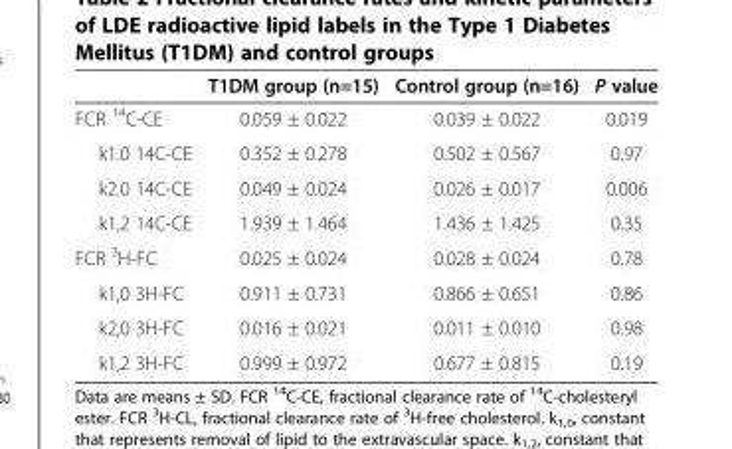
<table><thead><tr><td></td><td>T1DM group (n=15)</td><td>Control group (n=16)</td><td>P value</td></tr></thead><tbody><tr><td>FCR <sup>14</sup>C-CE</td><td>0.059 ± 0.022</td><td>0.039 ± 0.022</td><td>0.019</td></tr><tr><td>k1.0 14C-CE</td><td>0.352 ± 0.278</td><td>0.502 ± 0.567</td><td>0.97</td></tr><tr><td>k2.0 14C-CE</td><td>0.049 ± 0.024</td><td>0.026 ± 0.017</td><td>0.006</td></tr><tr><td>k1,2 14C-CE</td><td>1.939 ± 1.464</td><td>1.436 ± 1.425</td><td>0.35</td></tr><tr><td>FCR <sup>3</sup>H-FC</td><td>0.025 ± 0.024</td><td>0.028 ± 0.024</td><td>0.78</td></tr><tr><td>k1,0 3H-FC</td><td>0.911 ± 0.731</td><td>0.866 ± 0.651</td><td>0.86</td></tr><tr><td>k2,0 3H-FC</td><td>0.016 ± 0.021</td><td>0.011 ± 0.010</td><td>0.98</td></tr><tr><td>k1,2 3H-FC</td><td>0.999 ± 0.972</td><td>0.677 ± 0.815</td><td>0.19</td></tr></tbody></table>